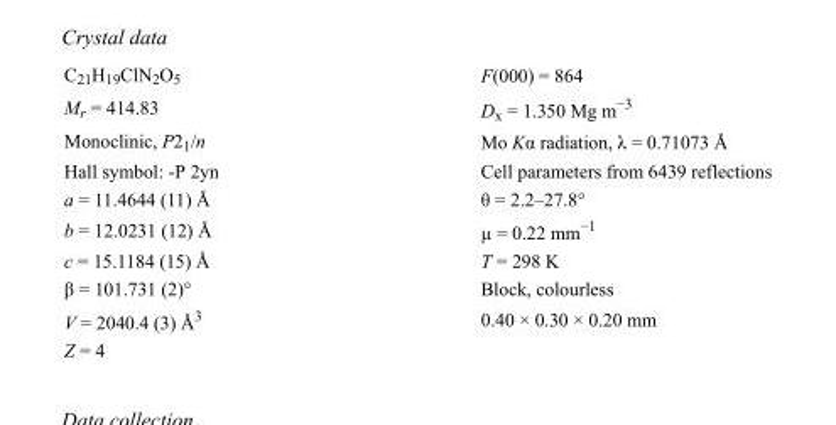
<table><tbody><tr><td>C<sub>21</sub>H<sub>19</sub>ClN<sub>2</sub>O<sub>5</sub></td><td>F(000) = 864</td></tr><tr><td>M<sub>r</sub> = 414.83</td><td>D<sub>x</sub> = 1.350 Mg m<sup>−3</sup></td></tr><tr><td>Monoclinic, P2<sub>1</sub>/n</td><td>Mo Kα radiation, λ = 0.71073 Å</td></tr><tr><td>Hall symbol: -P 2yn</td><td>Cell parameters from 6439 reflections</td></tr><tr><td>a = 11.4644 (11) Å</td><td>θ = 2.2–27.8°</td></tr><tr><td>b = 12.0231 (12) Å</td><td>µ = 0.22 mm<sup>−1</sup></td></tr><tr><td>c = 15.1184 (15) Å</td><td>T = 298 K</td></tr><tr><td>β = 101.731 (2)°</td><td>Block, colourless</td></tr><tr><td>V = 2040.4 (3) Å<sup>3</sup></td><td>0.40 × 0.30 × 0.20 mm</td></tr><tr><td>Z = 4</td><td></td></tr></tbody></table>